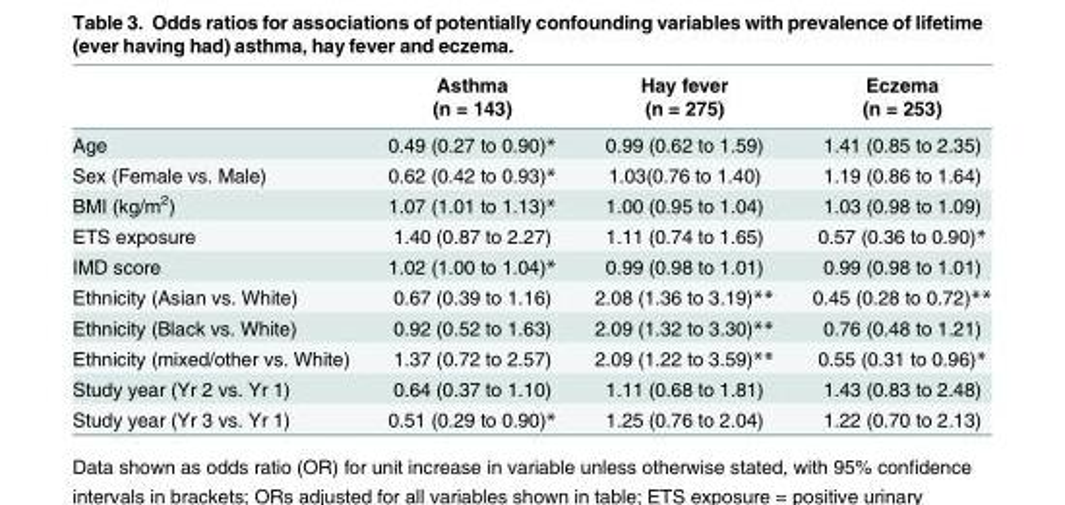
<table><thead><tr><td rowspan="2"></td><td rowspan="2">Asthma (n = 143)</td><td rowspan="2">Hay fever (n = 275)</td><td rowspan="2">Eczema (n = 253)</td></tr><tr></tr></thead><tbody><tr><td>Age</td><td>0.49 (0.27 to 0.90)*</td><td>0.99 (0.62 to 1.59)</td><td>1.41 (0.85 to 2.35)</td></tr><tr><td>Sex (Female vs. Male)</td><td>0.62 (0.42 to 0.93)*</td><td>1.03(0.76 to 1.40)</td><td>1.19 (0.86 to 1.64)</td></tr><tr><td>BMI (kg/m<sup>2</sup>)</td><td>1.07 (1.01 to 1.13)*</td><td>1.00 (0.95 to 1.04)</td><td>1.03 (0.98 to 1.09)</td></tr><tr><td>ETS exposure</td><td>1.40 (0.87 to 2.27)</td><td>1.11 (0.74 to 1.65)</td><td>0.57 (0.36 to 0.90)*</td></tr><tr><td>IMD score</td><td>1.02 (1.00 to 1.04)*</td><td>0.99 (0.98 to 1.01)</td><td>0.99 (0.98 to 1.01)</td></tr><tr><td>Ethnicity (Asian vs. White)</td><td>0.67 (0.39 to 1.16)</td><td>2.08 (1.36 to 3.19)**</td><td>0.45 (0.28 to 0.72)**</td></tr><tr><td>Ethnicity (Black vs. White)</td><td>0.92 (0.52 to 1.63)</td><td>2.09 (1.32 to 3.30)**</td><td>0.76 (0.48 to 1.21)</td></tr><tr><td>Ethnicity (mixed/other vs. White)</td><td>1.37 (0.72 to 2.57)</td><td>2.09 (1.22 to 3.59)**</td><td>0.55 (0.31 to 0.96)*</td></tr><tr><td>Study year (Yr 2 vs. Yr 1)</td><td>0.64 (0.37 to 1.10)</td><td>1.11 (0.68 to 1.81)</td><td>1.43 (0.83 to 2.48)</td></tr><tr><td>Study year (Yr 3 vs. Yr 1)</td><td>0.51 (0.29 to 0.90)*</td><td>1.25 (0.76 to 2.04)</td><td>1.22 (0.70 to 2.13)</td></tr></tbody></table>